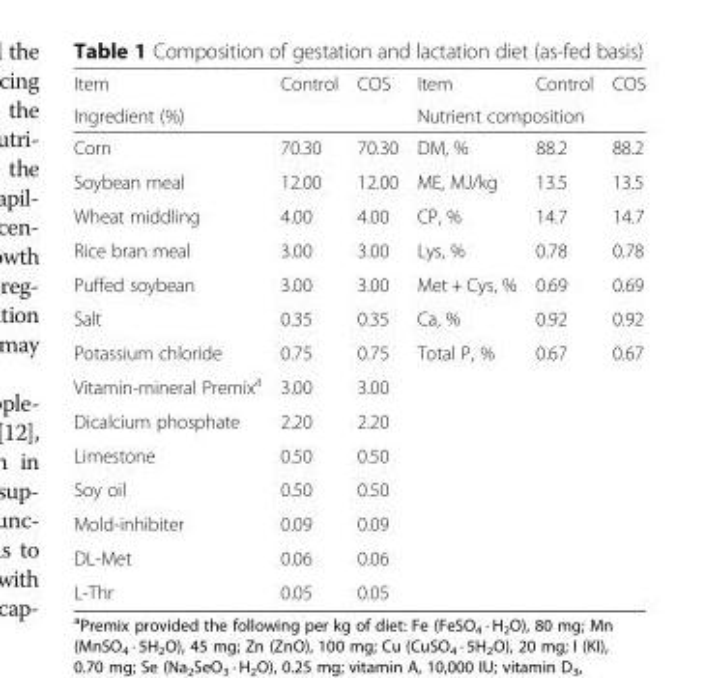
<table><thead><tr><td>Item</td><td>Control</td><td>COS</td><td>Item</td><td>Control</td><td>COS</td></tr><tr><td colspan="3">Ingredient (%)</td><td colspan="3">Nutrient composition</td></tr></thead><tbody><tr><td>Corn</td><td>70.30</td><td>70.30</td><td>DM, %</td><td>88.2</td><td>88.2</td></tr><tr><td>Soybean meal</td><td>12.00</td><td>12.00</td><td>ME, MJ/kg</td><td>13.5</td><td>13.5</td></tr><tr><td>Wheat middling</td><td>4.00</td><td>4.00</td><td>CP, %</td><td>14.7</td><td>14.7</td></tr><tr><td>Rice bran meal</td><td>3.00</td><td>3.00</td><td>Lys, %</td><td>0.78</td><td>0.78</td></tr><tr><td>Puffed soybean</td><td>3.00</td><td>3.00</td><td>Met + Cys, %</td><td>0.69</td><td>0.69</td></tr><tr><td>Salt</td><td>0.35</td><td>0.35</td><td>Ca, %</td><td>0.92</td><td>0.92</td></tr><tr><td>Potassium chloride</td><td>0.75</td><td>0.75</td><td>Total P, %</td><td>0.67</td><td>0.67</td></tr><tr><td>Vitamin-mineral Premix<sup>a</sup></td><td>3.00</td><td>3.00</td><td></td><td></td><td></td></tr><tr><td>Dicalcium phosphate</td><td>2.20</td><td>2.20</td><td></td><td></td><td></td></tr><tr><td>Limestone</td><td>0.50</td><td>0.50</td><td></td><td></td><td></td></tr><tr><td>Soy oil</td><td>0.50</td><td>0.50</td><td></td><td></td><td></td></tr><tr><td>Mold-inhibiter</td><td>0.09</td><td>0.09</td><td></td><td></td><td></td></tr><tr><td>DL-Met</td><td>0.06</td><td>0.06</td><td></td><td></td><td></td></tr><tr><td>L-Thr</td><td>0.05</td><td>0.05</td><td></td><td></td><td></td></tr></tbody></table>